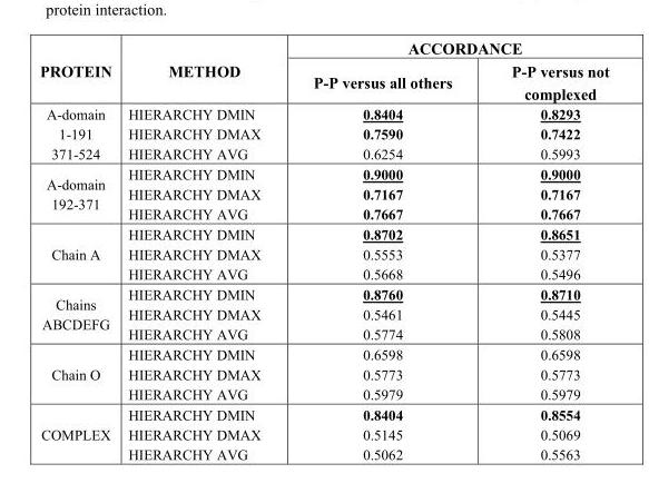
<table><thead><tr><td rowspan="2">PROTEIN</td><td rowspan="2">METHOD</td><td colspan="2">ACCORDANCE</td></tr><tr><td>P-P versus all others</td><td>P-P versus not complexed</td></tr></thead><tbody><tr><td>A-domain 1-191 371-524</td><td>HIERARCHY DMIN HIERARCHY DMAX HIERARCHY AVG</td><td>0.8404 0.7590 0.6254</td><td>0.8293 0.7422 0.5993</td></tr><tr><td>A-domain 192-371</td><td>HIERARCHY DMIN HIERARCHY DMAX HIERARCHY AVG</td><td>0.9000 0.7167 0.7667</td><td>0.9000 0.7167 0.7667</td></tr><tr><td>Chain A</td><td>HIERARCHY DMIN HIERARCHY DMAX HIERARCHY AVG</td><td>0.8702 0.5553 0.5668</td><td>0.8651 0.5377 0.5496</td></tr><tr><td>Chains ABCDEFG</td><td>HIERARCHY DMIN HIERARCHY DMAX HIERARCHY AVG</td><td>0.8760 0.5461 0.5774</td><td>0.8710 0.5445 0.5808</td></tr><tr><td>Chain O</td><td>HIERARCHY DMIN HIERARCHY DMAX HIERARCHY AVG</td><td>0.6598 0.5773 0.5979</td><td>0.6598 0.5773 0.5979</td></tr><tr><td>COMPLEX</td><td>HIERARCHY DMIN HIERARCHY DMAX HIERARCHY AVG</td><td>0.8404 0.5145 0.5062</td><td>0.8554 0.5069 0.5563</td></tr></tbody></table>